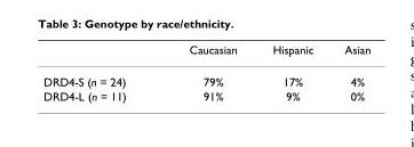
<table><thead><tr><td></td><td>Caucasian</td><td>Hispanic</td><td>Asian</td></tr></thead><tbody><tr><td>DRD4-S (n = 24)</td><td>79%</td><td>17%</td><td>4%</td></tr><tr><td>DRD4-L (n = 11)</td><td>91%</td><td>9%</td><td>0%</td></tr></tbody></table>